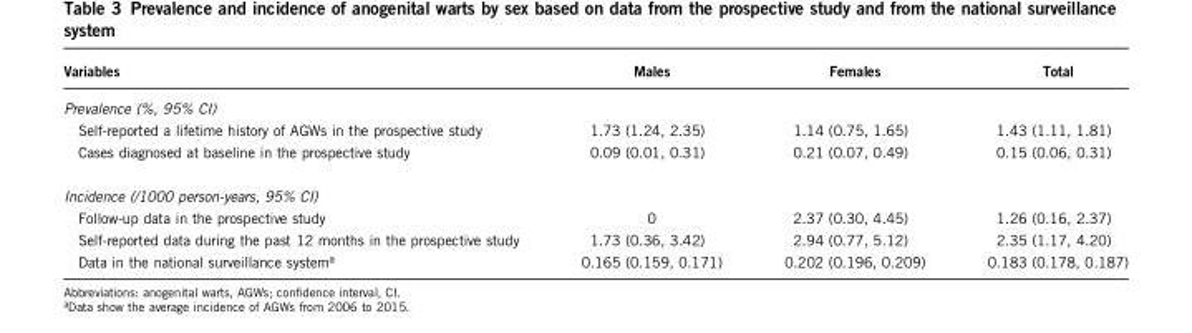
<table><thead><tr><td>Variables</td><td>Males</td><td>Females</td><td>Total</td></tr></thead><tbody><tr><td colspan="4">Prevalence (%, 95% CI)</td></tr><tr><td>Self-reported a lifetime history of AGWs in the prospective study</td><td>1.73 (1.24, 2.35)</td><td>1.14 (0.75, 1.65)</td><td>1.43 (1.11, 1.81)</td></tr><tr><td>Cases diagnosed at baseline in the prospective study</td><td>0.09 (0.01, 0.31)</td><td>0.21 (0.07, 0.49)</td><td>0.15 (0.06, 0.31)</td></tr><tr><td colspan="4">Incidence (/1000 person-years, 95% CI)</td></tr><tr><td>Follow-up data in the prospective study</td><td>0</td><td>2.37 (0.30, 4.45)</td><td>1.26 (0.16, 2.37)</td></tr><tr><td>Self-reported data during the past 12 months in the prospective study</td><td>1.73 (0.36, 3.42)</td><td>2.94 (0.77, 5.12)</td><td>2.35 (1.17, 4.20)</td></tr><tr><td>Data in the national surveillance system<sup>a</sup></td><td>0.165 (0.159, 0.171)</td><td>0.202 (0.196, 0.209)</td><td>0.183 (0.178, 0.187)</td></tr></tbody></table>